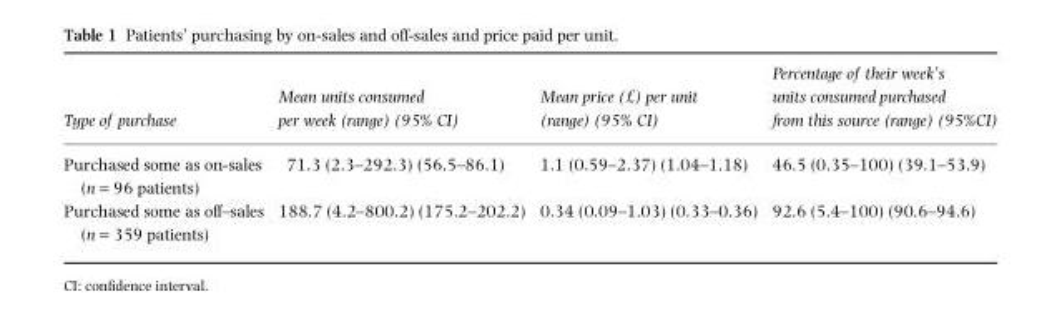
<table><thead><tr><td>Type of purchase</td><td>Mean units consumed per week (range) (95% CI)</td><td>Mean price (£) per unit (range) (95% CI)</td><td>Percentage of their week’s units consumed purchased from this source (range) (95%CI)</td></tr></thead><tbody><tr><td>Purchased some as on-sales (n = 96 patients)</td><td>71.3 (2.3–292.3) (56.5–86.1)</td><td>1.1 (0.59–2.37) (1.04–1.18)</td><td>46.5 (0.35–100) (39.1–53.9)</td></tr><tr><td>Purchased some as off–sales (n = 359 patients)</td><td>188.7 (4.2–800.2) (175.2–202.2)</td><td>0.34 (0.09–1.03) (0.33–0.36)</td><td>92.6 (5.4–100) (90.6–94.6)</td></tr></tbody></table>